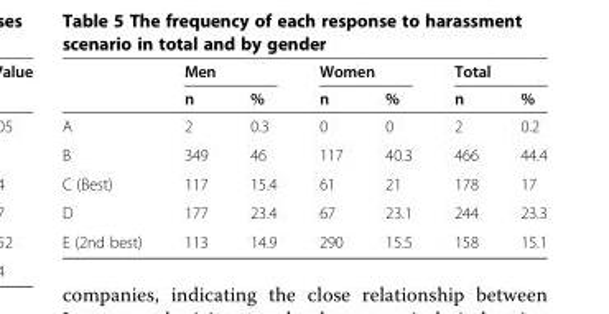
<table><thead><tr><td rowspan="2"></td><td colspan="2">Men</td><td colspan="2">Women</td><td colspan="2">Total</td></tr><tr><td>n</td><td>%</td><td>n</td><td>%</td><td>n</td><td>%</td></tr></thead><tbody><tr><td>A</td><td>2</td><td>0.3</td><td>0</td><td>0</td><td>2</td><td>0.2</td></tr><tr><td>B</td><td>349</td><td>46</td><td>117</td><td>40.3</td><td>466</td><td>44.4</td></tr><tr><td>C (Best)</td><td>117</td><td>15.4</td><td>61</td><td>21</td><td>178</td><td>17</td></tr><tr><td>D</td><td>177</td><td>23.4</td><td>67</td><td>23.1</td><td>244</td><td>23.3</td></tr><tr><td>E (2nd best)</td><td>113</td><td>14.9</td><td>290</td><td>15.5</td><td>158</td><td>15.1</td></tr></tbody></table>